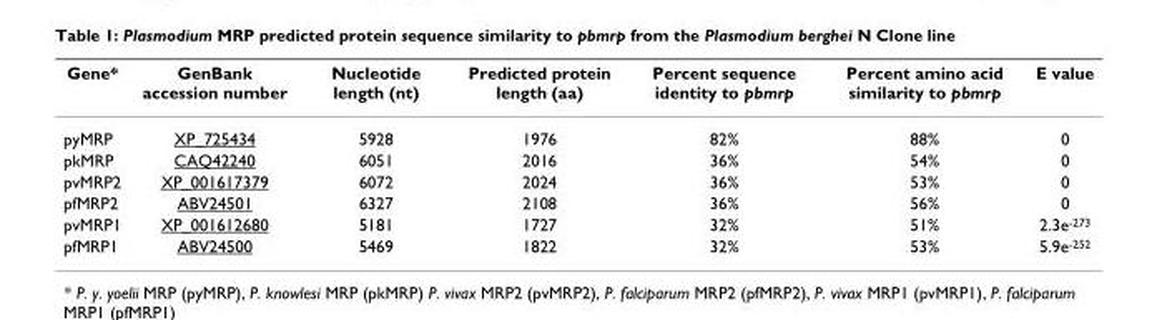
<table><thead><tr><td>Gene*</td><td>GenBank accession number</td><td>Nucleotide length (nt)</td><td>Predicted protein length (aa)</td><td>Percent sequence identity to pbmrp</td><td>Percent amino acid similarity to pbmrp</td><td>E value</td></tr></thead><tbody><tr><td>pyMRP</td><td>XP_725434</td><td>5928</td><td>1976</td><td>82%</td><td>88%</td><td>0</td></tr><tr><td>pkMRP</td><td>CAQ42240</td><td>6051</td><td>2016</td><td>36%</td><td>54%</td><td>0</td></tr><tr><td>pvMRP2</td><td>XP_001617379</td><td>6072</td><td>2024</td><td>36%</td><td>53%</td><td>0</td></tr><tr><td>pfMRP2</td><td>ABV24501</td><td>6327</td><td>2108</td><td>36%</td><td>56%</td><td>0</td></tr><tr><td>pvMRP1</td><td>XP_001612680</td><td>5181</td><td>1727</td><td>32%</td><td>51%</td><td>2.3e<sup>-273</sup></td></tr><tr><td>pfMRP1</td><td>ABV24500</td><td>5469</td><td>1822</td><td>32%</td><td>53%</td><td>5.9e<sup>-252</sup></td></tr></tbody></table>